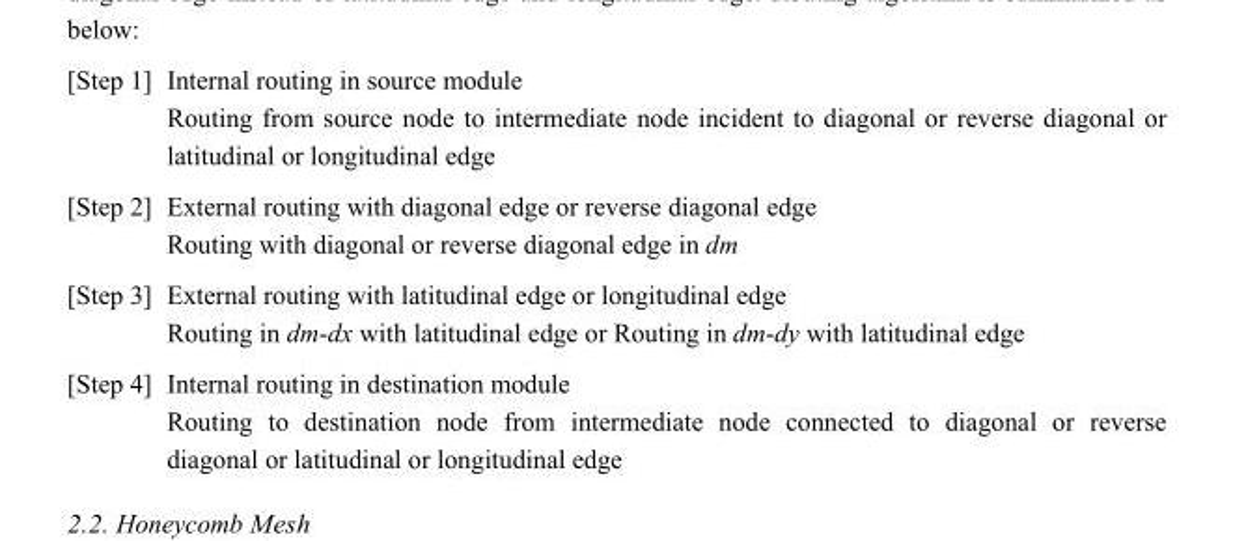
<table><tbody><tr><td rowspan="2">[Step 1]</td><td>Internal routing in source module</td></tr><tr><td>Routing from source node to intermediate node incident to diagonal or reverse diagonal or latitudinal or longitudinal edge</td></tr><tr><td rowspan="2">[Step 2]</td><td>External routing with diagonal edge or reverse diagonal edge</td></tr><tr><td>Routing with diagonal or reverse diagonal edge in dm</td></tr><tr><td rowspan="2">[Step 3]</td><td>External routing with latitudinal edge or longitudinal edge</td></tr><tr><td>Routing in dm-dx with latitudinal edge or Routing in dm-dy with latitudinal edge</td></tr><tr><td rowspan="2">[Step 4]</td><td>Internal routing in destination module</td></tr><tr><td>Routing to destination node from intermediate node connected to diagonal or reverse diagonal or latitudinal or longitudinal edge</td></tr></tbody></table>